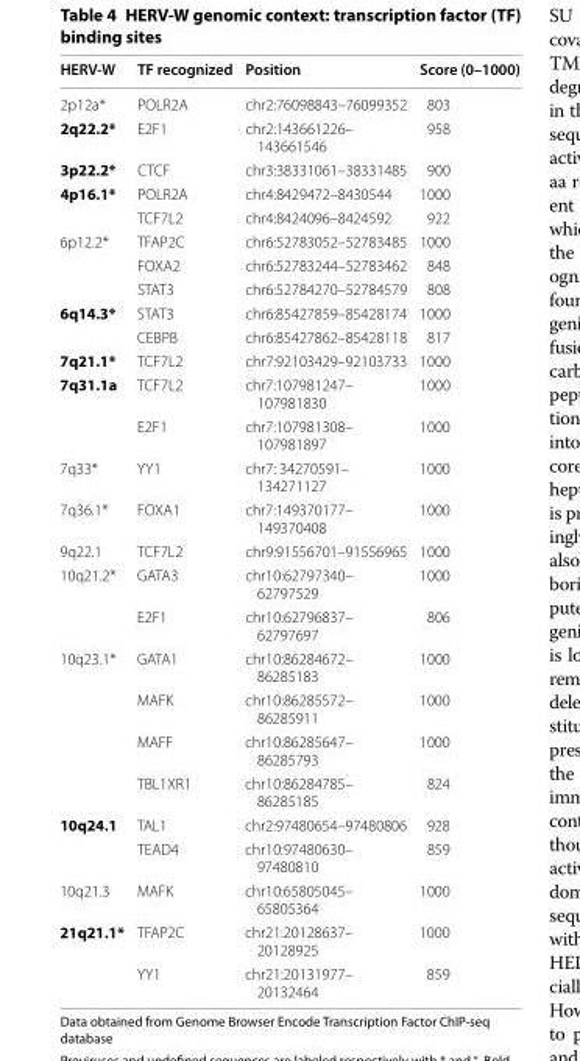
<table><thead><tr><td>HERV‑W</td><td>TF recognized</td><td>Position</td><td>Score (0–1000)</td></tr></thead><tbody><tr><td>2p12a*</td><td>POLR2A</td><td>chr2:76098843–76099352</td><td>803</td></tr><tr><td>2q22.2*</td><td>E2F1</td><td>chr2:143661226– 143661546</td><td>958</td></tr><tr><td>3p22.2*</td><td>CTCF</td><td>chr3:38331061–38331485</td><td>900</td></tr><tr><td rowspan="2">4p16.1*</td><td>POLR2A</td><td>chr4:8429472–8430544</td><td>1000</td></tr><tr><td>TCF7L2</td><td>chr4:8424096–8424592</td><td>922</td></tr><tr><td rowspan="3">6p12.2*</td><td>TFAP2C</td><td>chr6:52783052–52783485</td><td>1000</td></tr><tr><td>FOXA2</td><td>chr6:52783244–52783462</td><td>848</td></tr><tr><td>STAT3</td><td>chr6:52784270–52784579</td><td>808</td></tr><tr><td rowspan="2">6q14.3*</td><td>STAT3</td><td>chr6:85427859–85428174</td><td>1000</td></tr><tr><td>CEBPB</td><td>chr6:85427862–85428118</td><td>817</td></tr><tr><td>7q21.1*</td><td>TCF7L2</td><td>chr7:92103429–92103733</td><td>1000</td></tr><tr><td rowspan="2">7q31.1a</td><td>TCF7L2</td><td>chr7:107981247– 107981830</td><td>1000</td></tr><tr><td>E2F1</td><td>chr7:107981308– 107981897</td><td>1000</td></tr><tr><td>7q33*</td><td>YY1</td><td>chr7: 34270591– 134271127</td><td>1000</td></tr><tr><td>7q36.1*</td><td>FOXA1</td><td>chr7:149370177– 149370408</td><td>1000</td></tr><tr><td>9q22.1</td><td>TCF7L2</td><td>chr9:91556701–91556965</td><td>1000</td></tr><tr><td rowspan="2">10q21.2*</td><td>GATA3</td><td>chr10:62797340– 62797529</td><td>1000</td></tr><tr><td>E2F1</td><td>chr10:62796837– 62797697</td><td>806</td></tr><tr><td rowspan="4">10q23.1*</td><td>GATA1</td><td>chr10:86284672– 86285183</td><td>1000</td></tr><tr><td>MAFK</td><td>chr10:86285572– 86285911</td><td>1000</td></tr><tr><td>MAFF</td><td>chr10:86285647– 86285793</td><td>1000</td></tr><tr><td>TBL1XR1</td><td>chr10:86284785– 86285185</td><td>824</td></tr><tr><td rowspan="2">10q24.1</td><td>TAL1</td><td>chr2:97480654–97480806</td><td>928</td></tr><tr><td>TEAD4</td><td>chr10:97480630– 97480810</td><td>859</td></tr><tr><td>10q21.3</td><td>MAFK</td><td>chr10:65805045– 65805364</td><td>1000</td></tr><tr><td rowspan="2">21q21.1*</td><td>TFAP2C</td><td>chr21:20128637– 20128925</td><td>1000</td></tr><tr><td>YY1</td><td>chr21:20131977– 20132464</td><td>859</td></tr></tbody></table>